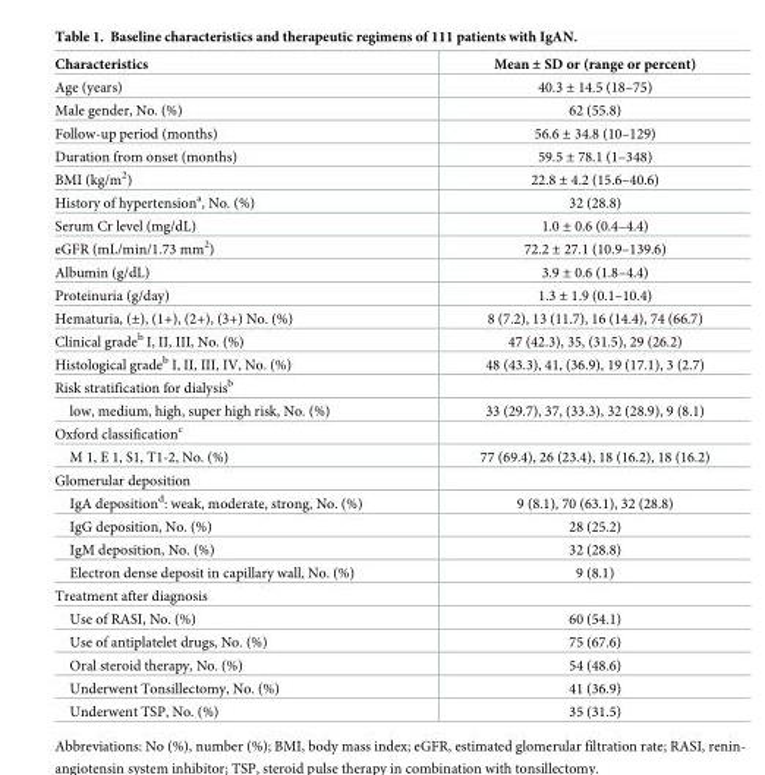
<table><thead><tr><td>Characteristics</td><td>Mean ± SD or (range or percent)</td></tr></thead><tbody><tr><td>Age (years)</td><td>40.3 ± 14.5 (18–75)</td></tr><tr><td>Male gender, No. (%)</td><td>62 (55.8)</td></tr><tr><td>Follow-up period (months)</td><td>56.6 ± 34.8 (10–129)</td></tr><tr><td>Duration from onset (months)</td><td>59.5 ± 78.1 (1–348)</td></tr><tr><td>BMI (kg/m<sup>2</sup>)</td><td>22.8 ± 4.2 (15.6–40.6)</td></tr><tr><td>History of hypertension<sup>a</sup>, No. (%)</td><td>32 (28.8)</td></tr><tr><td>Serum Cr level (mg/dL)</td><td>1.0 ± 0.6 (0.4–4.4)</td></tr><tr><td>eGFR (mL/min/1.73 mm<sup>2</sup>)</td><td>72.2 ± 27.1 (10.9–139.6)</td></tr><tr><td>Albumin (g/dL)</td><td>3.9 ± 0.6 (1.8–4.4)</td></tr><tr><td>Proteinuria (g/day)</td><td>1.3 ± 1.9 (0.1–10.4)</td></tr><tr><td>Hematuria, (±), (1+), (2+), (3+) No. (%)</td><td>8 (7.2), 13 (11.7), 16 (14.4), 74 (66.7)</td></tr><tr><td>Clinical grade<sup>b</sup> I, II, III, No. (%)</td><td>47 (42.3), 35, (31.5), 29 (26.2)</td></tr><tr><td>Histological grade<sup>b</sup> I, II, III, IV, No. (%)</td><td>48 (43.3), 41, (36.9), 19 (17.1), 3 (2.7)</td></tr><tr><td colspan="2">Risk stratification for dialysis<sup>b</sup></td></tr><tr><td>low, medium, high, super high risk, No. (%)</td><td>33 (29.7), 37, (33.3), 32 (28.9), 9 (8.1)</td></tr><tr><td colspan="2">Oxford classification<sup>c</sup></td></tr><tr><td>M 1, E 1, S1, T1-2, No. (%)</td><td>77 (69.4), 26 (23.4), 18 (16.2), 18 (16.2)</td></tr><tr><td colspan="2">Glomerular deposition</td></tr><tr><td>IgA deposition<sup>d</sup>: weak, moderate, strong, No. (%)</td><td>9 (8.1), 70 (63.1), 32 (28.8)</td></tr><tr><td>IgG deposition, No. (%)</td><td>28 (25.2)</td></tr><tr><td>IgM deposition, No. (%)</td><td>32 (28.8)</td></tr><tr><td>Electron dense deposit in capillary wall, No. (%)</td><td>9 (8.1)</td></tr><tr><td colspan="2">Treatment after diagnosis</td></tr><tr><td>Use of RASI, No. (%)</td><td>60 (54.1)</td></tr><tr><td>Use of antiplatelet drugs, No. (%)</td><td>75 (67.6)</td></tr><tr><td>Oral steroid therapy, No. (%)</td><td>54 (48.6)</td></tr><tr><td>Underwent Tonsillectomy, No. (%)</td><td>41 (36.9)</td></tr><tr><td>Underwent TSP, No. (%)</td><td>35 (31.5)</td></tr></tbody></table>